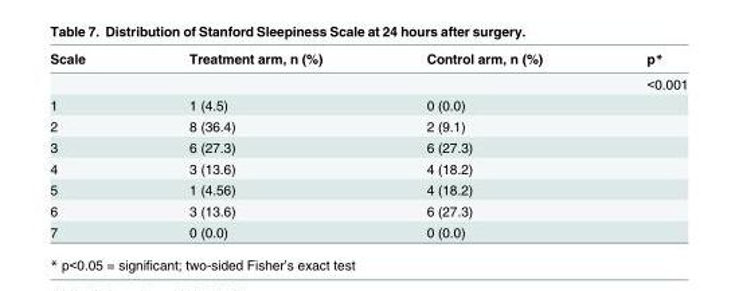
<table><thead><tr><td>Scale</td><td>Treatment arm, n (%)</td><td>Control arm, n (%)</td><td>p*</td></tr></thead><tbody><tr><td></td><td></td><td></td><td>&lt;0.001</td></tr><tr><td>1</td><td>1 (4.5)</td><td>0 (0.0)</td><td></td></tr><tr><td>2</td><td>8 (36.4)</td><td>2 (9.1)</td><td></td></tr><tr><td>3</td><td>6 (27.3)</td><td>6 (27.3)</td><td></td></tr><tr><td>4</td><td>3 (13.6)</td><td>4 (18.2)</td><td></td></tr><tr><td>5</td><td>1 (4.56)</td><td>4 (18.2)</td><td></td></tr><tr><td>6</td><td>3 (13.6)</td><td>6 (27.3)</td><td></td></tr><tr><td>7</td><td>0 (0.0)</td><td>0 (0.0)</td><td></td></tr></tbody></table>